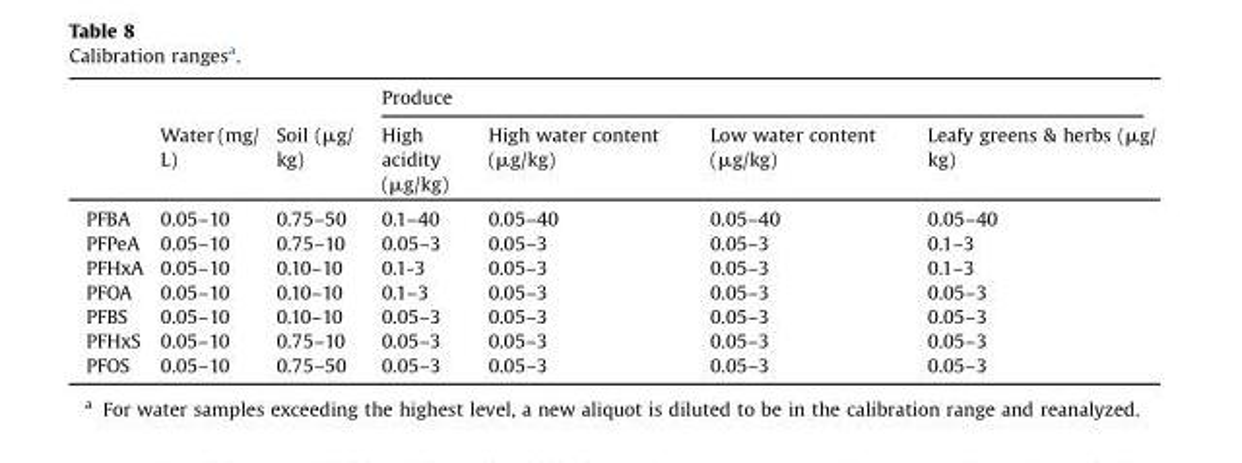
<table><thead><tr><td rowspan="2"></td><td rowspan="2">Water (mg/ L)</td><td rowspan="2">Soil (μg/ kg)</td><td colspan="4">Produce</td></tr><tr><td>High acidity (μg/kg)</td><td>High water content (μg/kg)</td><td>Low water content (μg/kg)</td><td>Leafy greens &amp; herbs (μg/ kg)</td></tr></thead><tbody><tr><td>PFBA</td><td>0.05–10</td><td>0.75–50</td><td>0.1–40</td><td>0.05–40</td><td>0.05–40</td><td>0.05–40</td></tr><tr><td>PFPeA</td><td>0.05–10</td><td>0.75–10</td><td>0.05–3</td><td>0.05–3</td><td>0.05–3</td><td>0.1–3</td></tr><tr><td>PFHxA</td><td>0.05–10</td><td>0.10–10</td><td>0.1-3</td><td>0.05–3</td><td>0.05–3</td><td>0.1–3</td></tr><tr><td>PFOA</td><td>0.05–10</td><td>0.10–10</td><td>0.1–3</td><td>0.05–3</td><td>0.05–3</td><td>0.05–3</td></tr><tr><td>PFBS</td><td>0.05–10</td><td>0.10–10</td><td>0.05–3</td><td>0.05–3</td><td>0.05–3</td><td>0.05–3</td></tr><tr><td>PFHxS</td><td>0.05–10</td><td>0.75–10</td><td>0.05–3</td><td>0.05–3</td><td>0.05–3</td><td>0.05–3</td></tr><tr><td>PFOS</td><td>0.05–10</td><td>0.75–50</td><td>0.05–3</td><td>0.05–3</td><td>0.05–3</td><td>0.05–3</td></tr></tbody></table>